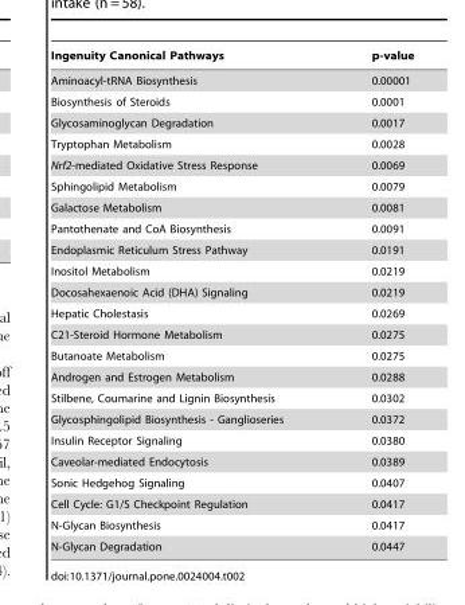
<table><thead><tr><td>Ingenuity Canonical Pathways</td><td>p-value</td></tr></thead><tbody><tr><td>Aminoacyl-tRNA Biosynthesis</td><td>0.00001</td></tr><tr><td>Biosynthesis of Steroids</td><td>0.0001</td></tr><tr><td>Glycosaminoglycan Degradation</td><td>0.0017</td></tr><tr><td>Tryptophan Metabolism</td><td>0.0028</td></tr><tr><td>Nrf2-mediated Oxidative Stress Response</td><td>0.0069</td></tr><tr><td>Sphingolipid Metabolism</td><td>0.0079</td></tr><tr><td>Galactose Metabolism</td><td>0.0081</td></tr><tr><td>Pantothenate and CoA Biosynthesis</td><td>0.0091</td></tr><tr><td>Endoplasmic Reticulum Stress Pathway</td><td>0.0191</td></tr><tr><td>Inositol Metabolism</td><td>0.0219</td></tr><tr><td>Docosahexaenoic Acid (DHA) Signaling</td><td>0.0219</td></tr><tr><td>Hepatic Cholestasis</td><td>0.0269</td></tr><tr><td>C21-Steroid Hormone Metabolism</td><td>0.0275</td></tr><tr><td>Butanoate Metabolism</td><td>0.0275</td></tr><tr><td>Androgen and Estrogen Metabolism</td><td>0.0288</td></tr><tr><td>Stilbene, Coumarine and Lignin Biosynthesis</td><td>0.0302</td></tr><tr><td>Glycosphingolipid Biosynthesis - Ganglioseries</td><td>0.0372</td></tr><tr><td>Insulin Receptor Signaling</td><td>0.0380</td></tr><tr><td>Caveolar-mediated Endocytosis</td><td>0.0389</td></tr><tr><td>Sonic Hedgehog Signaling</td><td>0.0407</td></tr><tr><td>Cell Cycle: G1/S Checkpoint Regulation</td><td>0.0417</td></tr><tr><td>N-Glycan Biosynthesis</td><td>0.0417</td></tr><tr><td>N-Glycan Degradation</td><td>0.0447</td></tr></tbody></table>